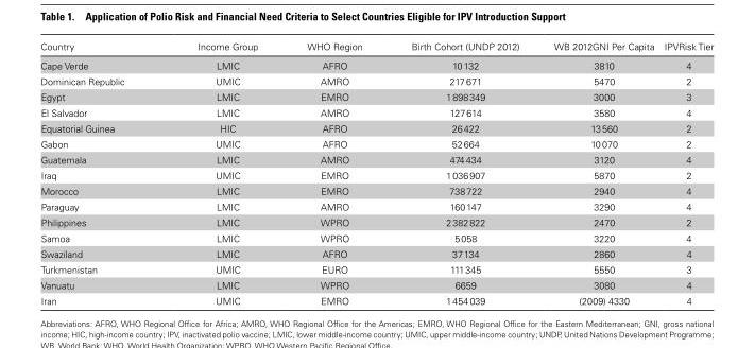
<table><thead><tr><td>Country</td><td>Income Group</td><td>WHO Region</td><td>Birth Cohort (UNDP 2012)</td><td>WB 2012GNI Per Capita</td><td>IPVRisk Tier</td></tr></thead><tbody><tr><td>Cape Verde</td><td>LMIC</td><td>AFRO</td><td>10 132</td><td>3810</td><td>4</td></tr><tr><td>Dominican Republic</td><td>UMIC</td><td>AMRO</td><td>217 671</td><td>5470</td><td>2</td></tr><tr><td>Egypt</td><td>LMIC</td><td>EMRO</td><td>1 898 349</td><td>3000</td><td>3</td></tr><tr><td>El Salvador</td><td>LMIC</td><td>AMRO</td><td>127 614</td><td>3580</td><td>4</td></tr><tr><td>Equatorial Guinea</td><td>HIC</td><td>AFRO</td><td>26 422</td><td>13 560</td><td>2</td></tr><tr><td>Gabon</td><td>UMIC</td><td>AFRO</td><td>52 664</td><td>10 070</td><td>2</td></tr><tr><td>Guatemala</td><td>LMIC</td><td>AMRO</td><td>474 434</td><td>3120</td><td>4</td></tr><tr><td>Iraq</td><td>UMIC</td><td>EMRO</td><td>1 036 907</td><td>5870</td><td>2</td></tr><tr><td>Morocco</td><td>LMIC</td><td>EMRO</td><td>738 722</td><td>2940</td><td>4</td></tr><tr><td>Paraguay</td><td>LMIC</td><td>AMRO</td><td>160 147</td><td>3290</td><td>4</td></tr><tr><td>Philippines</td><td>LMIC</td><td>WPRO</td><td>2 382 822</td><td>2470</td><td>2</td></tr><tr><td>Samoa</td><td>LMIC</td><td>WPRO</td><td>5 058</td><td>3220</td><td>4</td></tr><tr><td>Swaziland</td><td>LMIC</td><td>AFRO</td><td>37 134</td><td>2860</td><td>4</td></tr><tr><td>Turkmenistan</td><td>UMIC</td><td>EURO</td><td>111 345</td><td>5550</td><td>3</td></tr><tr><td>Vanuatu</td><td>LMIC</td><td>WPRO</td><td>6659</td><td>3080</td><td>4</td></tr><tr><td>Iran</td><td>UMIC</td><td>EMRO</td><td>1 454 039</td><td>(2009) 4330</td><td>4</td></tr></tbody></table>